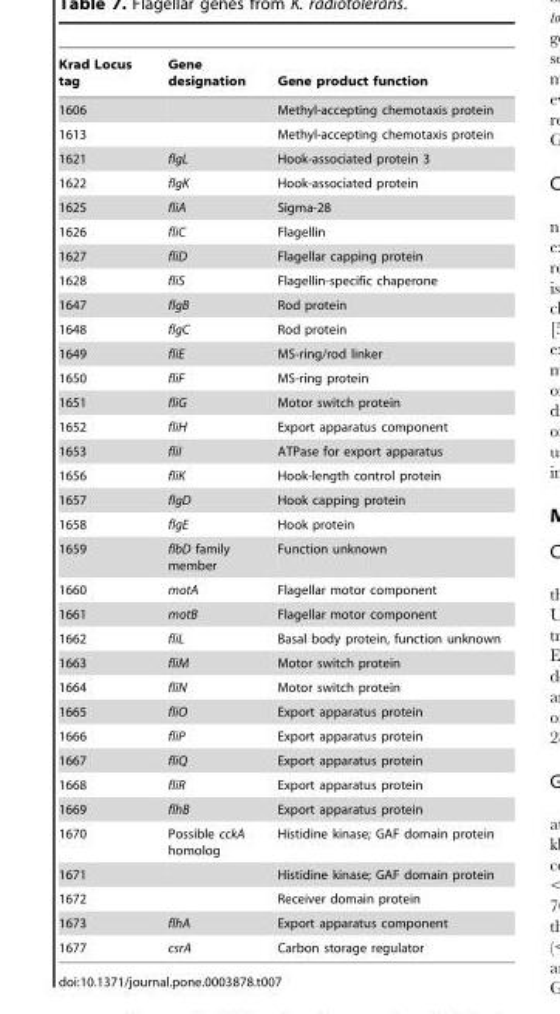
<table><thead><tr><td>Krad Locus tag</td><td>Gene designation</td><td>Gene product function</td></tr></thead><tbody><tr><td>1606</td><td></td><td>Methyl-accepting chemotaxis protein</td></tr><tr><td>1613</td><td></td><td>Methyl-accepting chemotaxis protein</td></tr><tr><td>1621</td><td>flgL</td><td>Hook-associated protein 3</td></tr><tr><td>1622</td><td>flgK</td><td>Hook-associated protein</td></tr><tr><td>1625</td><td>fliA</td><td>Sigma-28</td></tr><tr><td>1626</td><td>fliC</td><td>Flagellin</td></tr><tr><td>1627</td><td>fliD</td><td>Flagellar capping protein</td></tr><tr><td>1628</td><td>fliS</td><td>Flagellin-specific chaperone</td></tr><tr><td>1647</td><td>flgB</td><td>Rod protein</td></tr><tr><td>1648</td><td>flgC</td><td>Rod protein</td></tr><tr><td>1649</td><td>fliE</td><td>MS-ring/rod linker</td></tr><tr><td>1650</td><td>fliF</td><td>MS-ring protein</td></tr><tr><td>1651</td><td>fliG</td><td>Motor switch protein</td></tr><tr><td>1652</td><td>fliH</td><td>Export apparatus component</td></tr><tr><td>1653</td><td>fliI</td><td>ATPase for export apparatus</td></tr><tr><td>1656</td><td>fliK</td><td>Hook-length control protein</td></tr><tr><td>1657</td><td>flgD</td><td>Hook capping protein</td></tr><tr><td>1658</td><td>flgE</td><td>Hook protein</td></tr><tr><td>1659</td><td>flbD family member</td><td>Function unknown</td></tr><tr><td>1660</td><td>motA</td><td>Flagellar motor component</td></tr><tr><td>1661</td><td>motB</td><td>Flagellar motor component</td></tr><tr><td>1662</td><td>fliL</td><td>Basal body protein, function unknown</td></tr><tr><td>1663</td><td>fliM</td><td>Motor switch protein</td></tr><tr><td>1664</td><td>fliN</td><td>Motor switch protein</td></tr><tr><td>1665</td><td>fliO</td><td>Export apparatus protein</td></tr><tr><td>1666</td><td>fliP</td><td>Export apparatus protein</td></tr><tr><td>1667</td><td>fliQ</td><td>Export apparatus protein</td></tr><tr><td>1668</td><td>fliR</td><td>Export apparatus protein</td></tr><tr><td>1669</td><td>flhB</td><td>Export apparatus protein</td></tr><tr><td>1670</td><td>Possible cckA homolog</td><td>Histidine kinase; GAF domain protein</td></tr><tr><td>1671</td><td></td><td>Histidine kinase; GAF domain protein</td></tr><tr><td>1672</td><td></td><td>Receiver domain protein</td></tr><tr><td>1673</td><td>flhA</td><td>Export apparatus component</td></tr><tr><td>1677</td><td>csrA</td><td>Carbon storage regulator</td></tr></tbody></table>